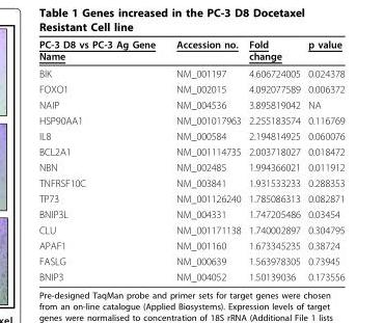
<table><thead><tr><td>PC-3 D8 vs PC-3 Ag Gene Name</td><td>Accession no.</td><td>Fold change</td><td>p value</td></tr></thead><tbody><tr><td>BIK</td><td>NM_001197</td><td>4.606724005</td><td>0.024378</td></tr><tr><td>FOXO1</td><td>NM_002015</td><td>4.092077589</td><td>0.006372</td></tr><tr><td>NAIP</td><td>NM_004536</td><td>3.895819042</td><td>NA</td></tr><tr><td>HSP90AA1</td><td>NM_001017963</td><td>2.255183574</td><td>0.116769</td></tr><tr><td>IL8</td><td>NM_000584</td><td>2.194814925</td><td>0.060076</td></tr><tr><td>BCL2A1</td><td>NM_001114735</td><td>2.003718027</td><td>0.018472</td></tr><tr><td>NBN</td><td>NM_002485</td><td>1.994366021</td><td>0.011912</td></tr><tr><td>TNFRSF10C</td><td>NM_003841</td><td>1.931533233</td><td>0.288353</td></tr><tr><td>TP73</td><td>NM_001126240</td><td>1.785086313</td><td>0.082871</td></tr><tr><td>BNIP3L</td><td>NM_004331</td><td>1.747205486</td><td>0.03454</td></tr><tr><td>CLU</td><td>NM_001171138</td><td>1.740002897</td><td>0.304795</td></tr><tr><td>APAF1</td><td>NM_001160</td><td>1.673345235</td><td>0.38724</td></tr><tr><td>FASLG</td><td>NM_000639</td><td>1.563978305</td><td>0.73945</td></tr><tr><td>BNIP3</td><td>NM_004052</td><td>1.50139036</td><td>0.173556</td></tr></tbody></table>